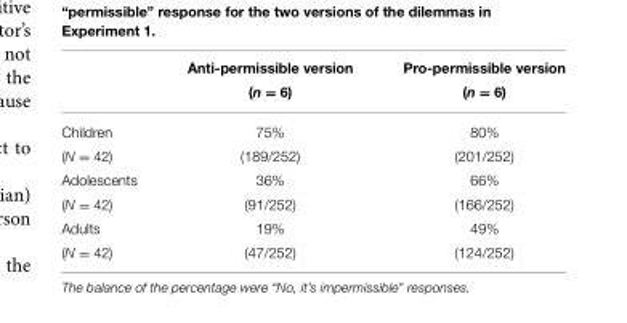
<table><thead><tr><td rowspan="2"></td><td rowspan="2">Anti-permissible version (n = 6)</td><td rowspan="2">Pro-permissible version (n = 6)</td></tr><tr></tr></thead><tbody><tr><td>Children</td><td>75%</td><td>80%</td></tr><tr><td>(N = 42)</td><td>(189/252)</td><td>(201/252)</td></tr><tr><td>Adolescents</td><td>36%</td><td>66%</td></tr><tr><td>(N = 42)</td><td>(91/252)</td><td>(166/252)</td></tr><tr><td>Adults</td><td>19%</td><td>49%</td></tr><tr><td>(N = 42)</td><td>(47/252)</td><td>(124/252)</td></tr></tbody></table>